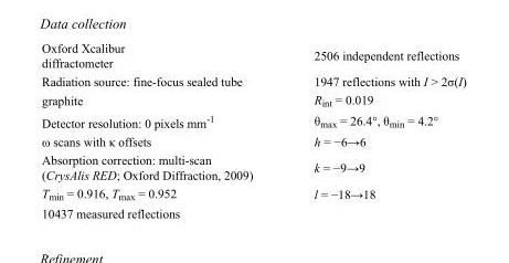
<table><tbody><tr><td>Oxford Xcalibur diffractometer</td><td>2506 independent reflections</td></tr><tr><td>Radiation source: fine-focus sealed tube</td><td>1947 reflections with I &gt; 2σ(I)</td></tr><tr><td>graphite</td><td>R<sub>int</sub> = 0.019</td></tr><tr><td>Detector resolution: 0 pixels mm<sup>-1</sup></td><td>θ<sub>max</sub> = 26.4°, θ<sub>min</sub> = 4.2°</td></tr><tr><td>ω scans with κ offsets</td><td>h = −6→6</td></tr><tr><td>Absorption correction: multi-scan (CrysAlis RED; Oxford Diffraction, 2009)</td><td>k = −9→9</td></tr><tr><td>T<sub>min</sub> = 0.916, T<sub>max</sub> = 0.952</td><td>l = −18→18</td></tr><tr><td>10437 measured reflections</td><td></td></tr></tbody></table>